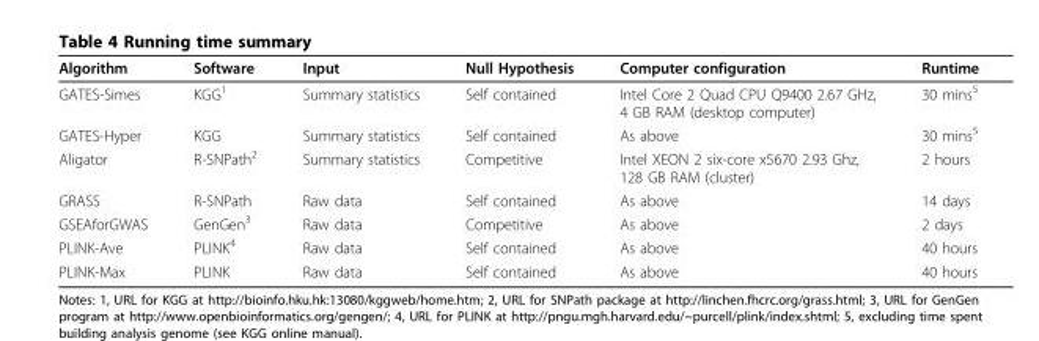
<table><thead><tr><td>Algorithm</td><td>Software</td><td>Input</td><td>Null Hypothesis</td><td>Computer configuration</td><td>Runtime</td></tr></thead><tbody><tr><td>GATES-Simes</td><td>KGG<sup>1</sup></td><td>Summary statistics</td><td>Self contained</td><td>Intel Core 2 Quad CPU Q9400 2.67 GHz, 4 GB RAM (desktop computer)</td><td>30 mins<sup>5</sup></td></tr><tr><td>GATES-Hyper</td><td>KGG</td><td>Summary statistics</td><td>Self contained</td><td>As above</td><td>30 mins<sup>5</sup></td></tr><tr><td>Aligator</td><td>R-SNPath<sup>2</sup></td><td>Summary statistics</td><td>Competitive</td><td>Intel XEON 2 six-core x5670 2.93 Ghz, 128 GB RAM (cluster)</td><td>2 hours</td></tr><tr><td>GRASS</td><td>R-SNPath</td><td>Raw data</td><td>Self contained</td><td>As above</td><td>14 days</td></tr><tr><td>GSEAforGWAS</td><td>GenGen<sup>3</sup></td><td>Raw data</td><td>Competitive</td><td>As above</td><td>2 days</td></tr><tr><td>PLINK-Ave</td><td>PLINK<sup>4</sup></td><td>Raw data</td><td>Self contained</td><td>As above</td><td>40 hours</td></tr><tr><td>PLINK-Max</td><td>PLINK</td><td>Raw data</td><td>Self contained</td><td>As above</td><td>40 hours</td></tr></tbody></table>